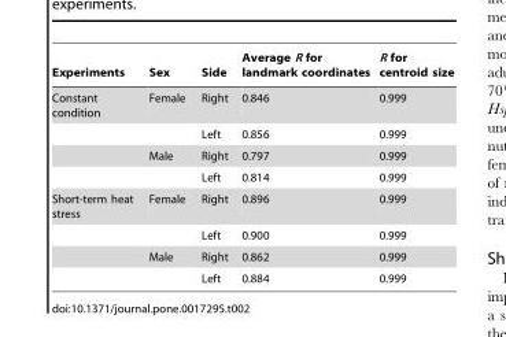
<table><thead><tr><td>Experiments</td><td>Sex</td><td>Side</td><td>Average R for landmark coordinates</td><td>R for centroid size</td></tr></thead><tbody><tr><td rowspan="4">Constant condition</td><td>Female</td><td>Right</td><td>0.846</td><td>0.999</td></tr><tr><td></td><td>Left</td><td>0.856</td><td>0.999</td></tr><tr><td>Male</td><td>Right</td><td>0.797</td><td>0.999</td></tr><tr><td></td><td>Left</td><td>0.814</td><td>0.999</td></tr><tr><td rowspan="4">Short-term heat stress</td><td>Female</td><td>Right</td><td>0.896</td><td>0.999</td></tr><tr><td></td><td>Left</td><td>0.900</td><td>0.999</td></tr><tr><td>Male</td><td>Right</td><td>0.862</td><td>0.999</td></tr><tr><td></td><td>Left</td><td>0.884</td><td>0.999</td></tr></tbody></table>